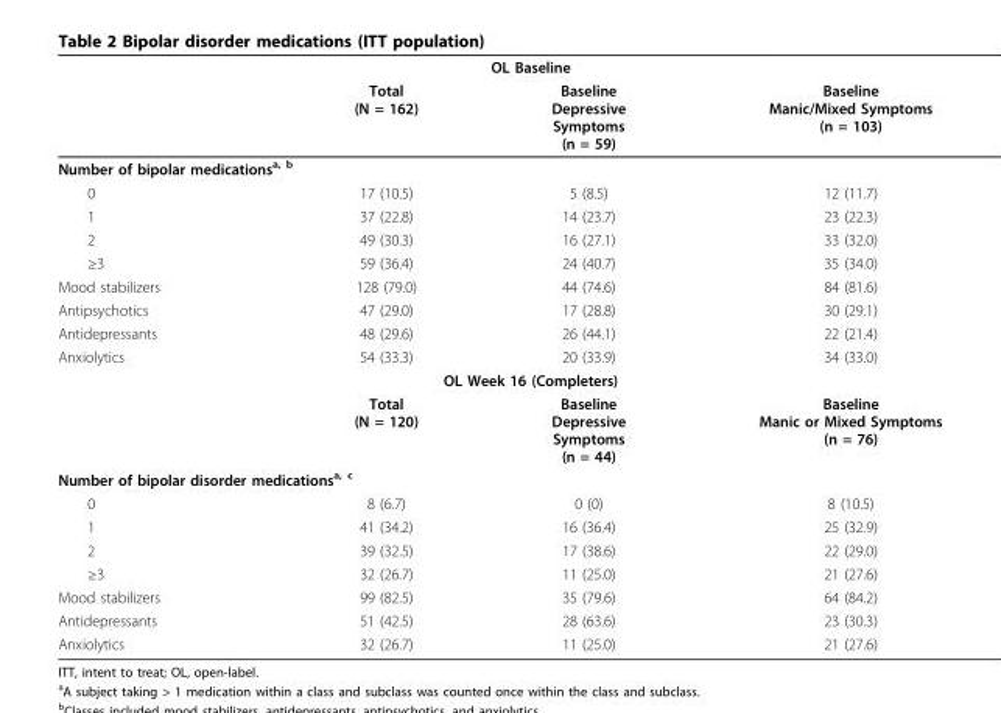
<table><thead><tr><td colspan="4">OL Baseline</td></tr><tr><td></td><td>Total (N = 162)</td><td>Baseline Depressive Symptoms (n = 59)</td><td>Baseline Manic/Mixed Symptoms (n = 103)</td></tr></thead><tbody><tr><td colspan="4">Number of bipolar medications<sup>a, b</sup></td></tr><tr><td>0</td><td>17 (10.5)</td><td>5 (8.5)</td><td>12 (11.7)</td></tr><tr><td>1</td><td>37 (22.8)</td><td>14 (23.7)</td><td>23 (22.3)</td></tr><tr><td>2</td><td>49 (30.3)</td><td>16 (27.1)</td><td>33 (32.0)</td></tr><tr><td>≥3</td><td>59 (36.4)</td><td>24 (40.7)</td><td>35 (34.0)</td></tr><tr><td>Mood stabilizers</td><td>128 (79.0)</td><td>44 (74.6)</td><td>84 (81.6)</td></tr><tr><td>Antipsychotics</td><td>47 (29.0)</td><td>17 (28.8)</td><td>30 (29.1)</td></tr><tr><td>Antidepressants</td><td>48 (29.6)</td><td>26 (44.1)</td><td>22 (21.4)</td></tr><tr><td>Anxiolytics</td><td>54 (33.3)</td><td>20 (33.9)</td><td>34 (33.0)</td></tr><tr><td colspan="4">OL Week 16 (Completers)</td></tr><tr><td></td><td>Total (N = 120)</td><td>Baseline Depressive Symptoms (n = 44)</td><td>Baseline Manic or Mixed Symptoms (n = 76)</td></tr><tr><td colspan="4">Number of bipolar disorder medications<sup>a, c</sup></td></tr><tr><td>0</td><td>8 (6.7)</td><td>0 (0)</td><td>8 (10.5)</td></tr><tr><td>1</td><td>41 (34.2)</td><td>16 (36.4)</td><td>25 (32.9)</td></tr><tr><td>2</td><td>39 (32.5)</td><td>17 (38.6)</td><td>22 (29.0)</td></tr><tr><td>≥3</td><td>32 (26.7)</td><td>11 (25.0)</td><td>21 (27.6)</td></tr><tr><td>Mood stabilizers</td><td>99 (82.5)</td><td>35 (79.6)</td><td>64 (84.2)</td></tr><tr><td>Antidepressants</td><td>51 (42.5)</td><td>28 (63.6)</td><td>23 (30.3)</td></tr><tr><td>Anxiolytics</td><td>32 (26.7)</td><td>11 (25.0)</td><td>21 (27.6)</td></tr></tbody></table>